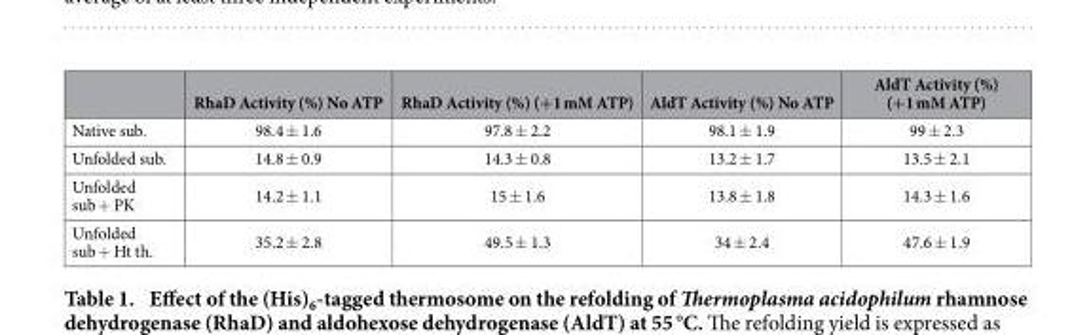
<table><thead><tr><td></td><td>RhaD Activity (%) No ATP</td><td>RhaD Activity (%) (+1 mM ATP)</td><td>AldT Activity (%) No ATP</td><td>AldT Activity (%) (+1 mM ATP)</td></tr></thead><tbody><tr><td>Native sub.</td><td>98.4 ± 1.6</td><td>97.8 ± 2.2</td><td>98.1 ± 1.9</td><td>99 ± 2.3</td></tr><tr><td>Unfolded sub.</td><td>14.8 ± 0.9</td><td>14.3 ± 0.8</td><td>13.2 ± 1.7</td><td>13.5 ± 2.1</td></tr><tr><td>Unfolded sub + PK</td><td>14.2 ± 1.1</td><td>15 ± 1.6</td><td>13.8 ± 1.8</td><td>14.3 ± 1.6</td></tr><tr><td>Unfolded sub + Ht th.</td><td>35.2 ± 2.8</td><td>49.5 ± 1.3</td><td>34 ± 2.4</td><td>47.6 ± 1.9</td></tr></tbody></table>